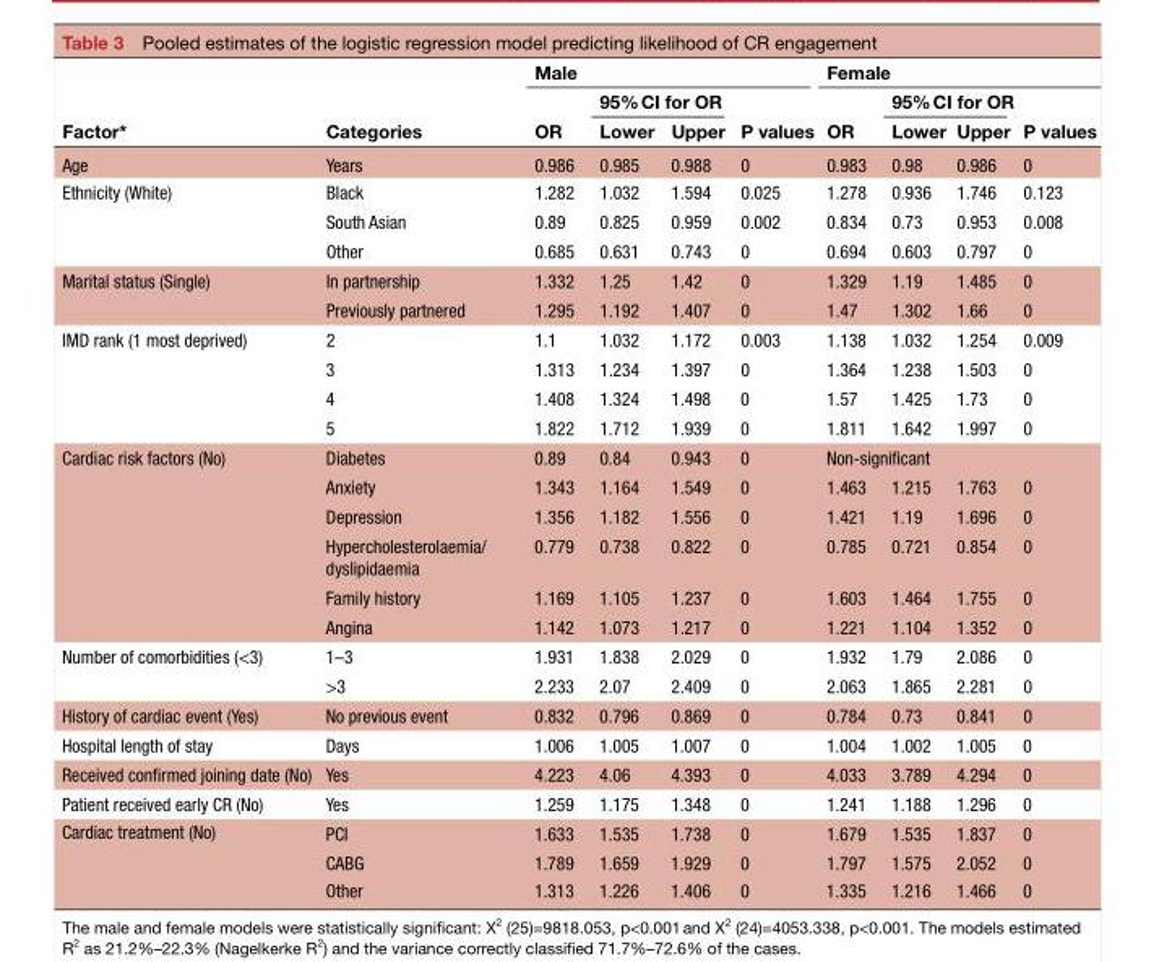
<table><thead><tr><td rowspan="3">Factor*</td><td rowspan="3">Categories</td><td colspan="4">Male</td><td colspan="4">Female</td></tr><tr><td rowspan="2">OR</td><td colspan="2">95% CI for OR</td><td rowspan="2">P values</td><td rowspan="2">OR</td><td colspan="2">95% CI for OR</td><td rowspan="2">P values</td></tr><tr><td>Lower</td><td>Upper</td><td>Lower</td><td>Upper</td></tr></thead><tbody><tr><td>Age</td><td>Years</td><td>0.986</td><td>0.985</td><td>0.988</td><td>0</td><td>0.983</td><td>0.98</td><td>0.986</td><td>0</td></tr><tr><td rowspan="3">Ethnicity (White)</td><td>Black</td><td>1.282</td><td>1.032</td><td>1.594</td><td>0.025</td><td>1.278</td><td>0.936</td><td>1.746</td><td>0.123</td></tr><tr><td>South Asian</td><td>0.89</td><td>0.825</td><td>0.959</td><td>0.002</td><td>0.834</td><td>0.73</td><td>0.953</td><td>0.008</td></tr><tr><td>Other</td><td>0.685</td><td>0.631</td><td>0.743</td><td>0</td><td>0.694</td><td>0.603</td><td>0.797</td><td>0</td></tr><tr><td rowspan="2">Marital status (Single)</td><td>In partnership</td><td>1.332</td><td>1.25</td><td>1.42</td><td>0</td><td>1.329</td><td>1.19</td><td>1.485</td><td>0</td></tr><tr><td>Previously partnered</td><td>1.295</td><td>1.192</td><td>1.407</td><td>0</td><td>1.47</td><td>1.302</td><td>1.66</td><td>0</td></tr><tr><td rowspan="4">IMD rank (1 most deprived)</td><td>2</td><td>1.1</td><td>1.032</td><td>1.172</td><td>0.003</td><td>1.138</td><td>1.032</td><td>1.254</td><td>0.009</td></tr><tr><td>3</td><td>1.313</td><td>1.234</td><td>1.397</td><td>0</td><td>1.364</td><td>1.238</td><td>1.503</td><td>0</td></tr><tr><td>4</td><td>1.408</td><td>1.324</td><td>1.498</td><td>0</td><td>1.57</td><td>1.425</td><td>1.73</td><td>0</td></tr><tr><td>5</td><td>1.822</td><td>1.712</td><td>1.939</td><td>0</td><td>1.811</td><td>1.642</td><td>1.997</td><td>0</td></tr><tr><td rowspan="6">Cardiac risk factors (No)</td><td>Diabetes</td><td>0.89</td><td>0.84</td><td>0.943</td><td>0</td><td colspan="4">Non-significant</td></tr><tr><td>Anxiety</td><td>1.343</td><td>1.164</td><td>1.549</td><td>0</td><td>1.463</td><td>1.215</td><td>1.763</td><td>0</td></tr><tr><td>Depression</td><td>1.356</td><td>1.182</td><td>1.556</td><td>0</td><td>1.421</td><td>1.19</td><td>1.696</td><td>0</td></tr><tr><td>Hypercholesterolaemia/ dyslipidaemia</td><td>0.779</td><td>0.738</td><td>0.822</td><td>0</td><td>0.785</td><td>0.721</td><td>0.854</td><td>0</td></tr><tr><td>Family history</td><td>1.169</td><td>1.105</td><td>1.237</td><td>0</td><td>1.603</td><td>1.464</td><td>1.755</td><td>0</td></tr><tr><td>Angina</td><td>1.142</td><td>1.073</td><td>1.217</td><td>0</td><td>1.221</td><td>1.104</td><td>1.352</td><td>0</td></tr><tr><td rowspan="2">Number of comorbidities (&lt;3)</td><td>1–3</td><td>1.931</td><td>1.838</td><td>2.029</td><td>0</td><td>1.932</td><td>1.79</td><td>2.086</td><td>0</td></tr><tr><td>&gt;3</td><td>2.233</td><td>2.07</td><td>2.409</td><td>0</td><td>2.063</td><td>1.865</td><td>2.281</td><td>0</td></tr><tr><td>History of cardiac event (Yes)</td><td>No previous event</td><td>0.832</td><td>0.796</td><td>0.869</td><td>0</td><td>0.784</td><td>0.73</td><td>0.841</td><td>0</td></tr><tr><td>Hospital length of stay</td><td>Days</td><td>1.006</td><td>1.005</td><td>1.007</td><td>0</td><td>1.004</td><td>1.002</td><td>1.005</td><td>0</td></tr><tr><td>Received confirmed joining date (No)</td><td>Yes</td><td>4.223</td><td>4.06</td><td>4.393</td><td>0</td><td>4.033</td><td>3.789</td><td>4.294</td><td>0</td></tr><tr><td>Patient received early CR (No)</td><td>Yes</td><td>1.259</td><td>1.175</td><td>1.348</td><td>0</td><td>1.241</td><td>1.188</td><td>1.296</td><td>0</td></tr><tr><td rowspan="3">Cardiac treatment (No)</td><td>PCI</td><td>1.633</td><td>1.535</td><td>1.738</td><td>0</td><td>1.679</td><td>1.535</td><td>1.837</td><td>0</td></tr><tr><td>CABG</td><td>1.789</td><td>1.659</td><td>1.929</td><td>0</td><td>1.797</td><td>1.575</td><td>2.052</td><td>0</td></tr><tr><td>Other</td><td>1.313</td><td>1.226</td><td>1.406</td><td>0</td><td>1.335</td><td>1.216</td><td>1.466</td><td>0</td></tr></tbody></table>